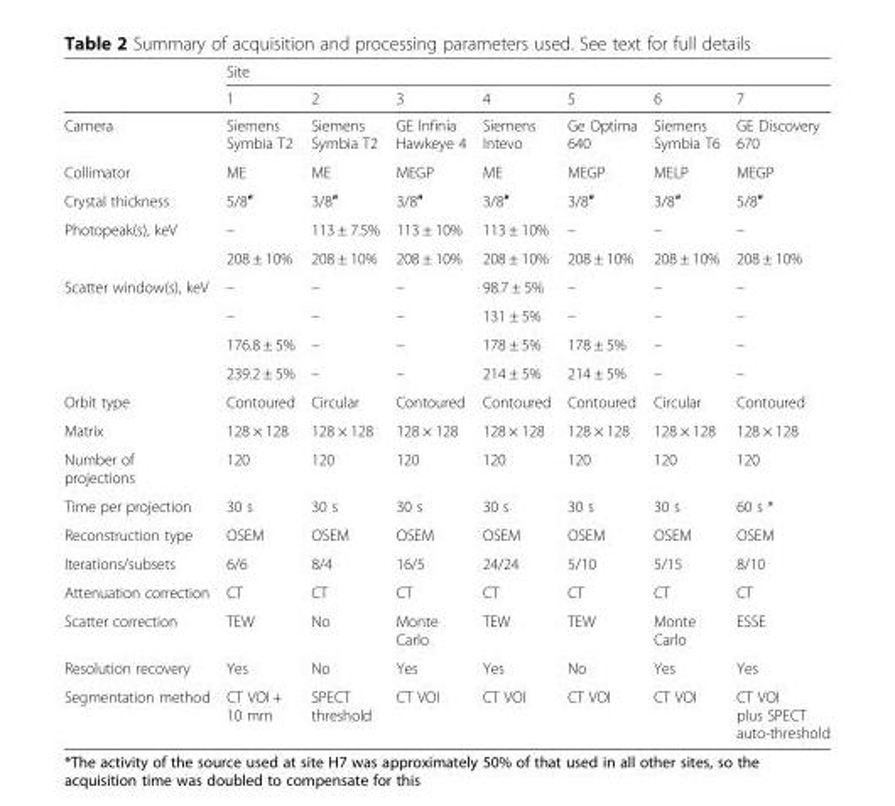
<table><thead><tr><td rowspan="2"></td><td colspan="7">Site</td></tr><tr><td>1</td><td>2</td><td>3</td><td>4</td><td>5</td><td>6</td><td>7</td></tr></thead><tbody><tr><td>Camera</td><td>Siemens Symbia T2</td><td>Siemens Symbia T2</td><td>GE Infinia Hawkeye 4</td><td>Siemens Intevo</td><td>Ge Optima 640</td><td>Siemens Symbia T6</td><td>GE Discovery 670</td></tr><tr><td>Collimator</td><td>ME</td><td>ME</td><td>MEGP</td><td>ME</td><td>MEGP</td><td>MELP</td><td>MEGP</td></tr><tr><td>Crystal thickness</td><td>5/8″</td><td>3/8″</td><td>3/8″</td><td>3/8″</td><td>3/8″</td><td>3/8″</td><td>5/8″</td></tr><tr><td rowspan="2">Photopeak(s), keV</td><td>–</td><td>113 ± 7.5%</td><td>113 ± 10%</td><td>113 ± 10%</td><td>–</td><td>–</td><td>–</td></tr><tr><td>208 ± 10%</td><td>208 ± 10%</td><td>208 ± 10%</td><td>208 ± 10%</td><td>208 ± 10%</td><td>208 ± 10%</td><td>208 ± 10%</td></tr><tr><td rowspan="4">Scatter window(s), keV</td><td>–</td><td>–</td><td>–</td><td>98.7 ± 5%</td><td>–</td><td>–</td><td>–</td></tr><tr><td>–</td><td>–</td><td>–</td><td>131 ± 5%</td><td>–</td><td>–</td><td>–</td></tr><tr><td>176.8 ± 5%</td><td>–</td><td>–</td><td>178 ± 5%</td><td>178 ± 5%</td><td>–</td><td>–</td></tr><tr><td>239.2 ± 5%</td><td>–</td><td>–</td><td>214 ± 5%</td><td>214 ± 5%</td><td>–</td><td>–</td></tr><tr><td>Orbit type</td><td>Contoured</td><td>Circular</td><td>Contoured</td><td>Contoured</td><td>Contoured</td><td>Circular</td><td>Contoured</td></tr><tr><td>Matrix</td><td>128 × 128</td><td>128 × 128</td><td>128 × 128</td><td>128 × 128</td><td>128 × 128</td><td>128 × 128</td><td>128 × 128</td></tr><tr><td>Number of projections</td><td>120</td><td>120</td><td>120</td><td>120</td><td>120</td><td>120</td><td>120</td></tr><tr><td>Time per projection</td><td>30 s</td><td>30 s</td><td>30 s</td><td>30 s</td><td>30 s</td><td>30 s</td><td>60 s *</td></tr><tr><td>Reconstruction type</td><td>OSEM</td><td>OSEM</td><td>OSEM</td><td>OSEM</td><td>OSEM</td><td>OSEM</td><td>OSEM</td></tr><tr><td>Iterations/subsets</td><td>6/6</td><td>8/4</td><td>16/5</td><td>24/24</td><td>5/10</td><td>5/15</td><td>8/10</td></tr><tr><td>Attenuation correction</td><td>CT</td><td>CT</td><td>CT</td><td>CT</td><td>CT</td><td>CT</td><td>CT</td></tr><tr><td>Scatter correction</td><td>TEW</td><td>No</td><td>Monte Carlo</td><td>TEW</td><td>TEW</td><td>Monte Carlo</td><td>ESSE</td></tr><tr><td>Resolution recovery</td><td>Yes</td><td>No</td><td>Yes</td><td>Yes</td><td>No</td><td>Yes</td><td>Yes</td></tr><tr><td>Segmentation method</td><td>CT VOI + 10 mm</td><td>SPECT threshold</td><td>CT VOI</td><td>CT VOI</td><td>CT VOI</td><td>CT VOI</td><td>CT VOI plus SPECT auto-threshold</td></tr></tbody></table>